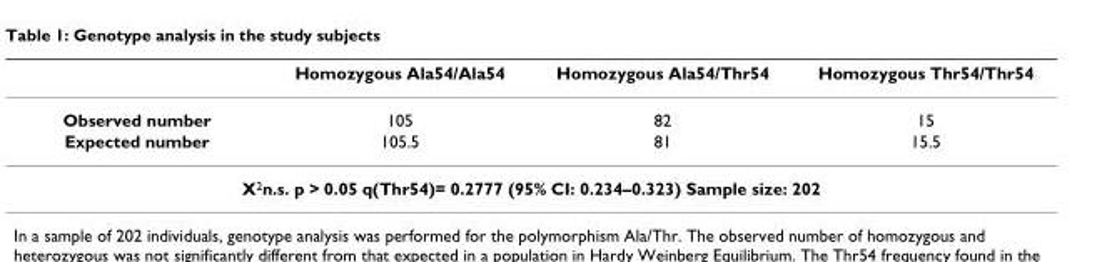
<table><thead><tr><td></td><td>Homozygous Ala54/Ala54</td><td>Homozygous Ala54/Thr54</td><td>Homozygous Thr54/Thr54</td></tr></thead><tbody><tr><td>Observed number</td><td>105</td><td>82</td><td>15</td></tr><tr><td>Expected number</td><td>105.5</td><td>81</td><td>15.5</td></tr><tr><td colspan="4">X<sup>2</sup>n.s. p &gt; 0.05 q(Thr54)= 0.2777 (95% CI: 0.234–0.323) Sample size: 202</td></tr></tbody></table>